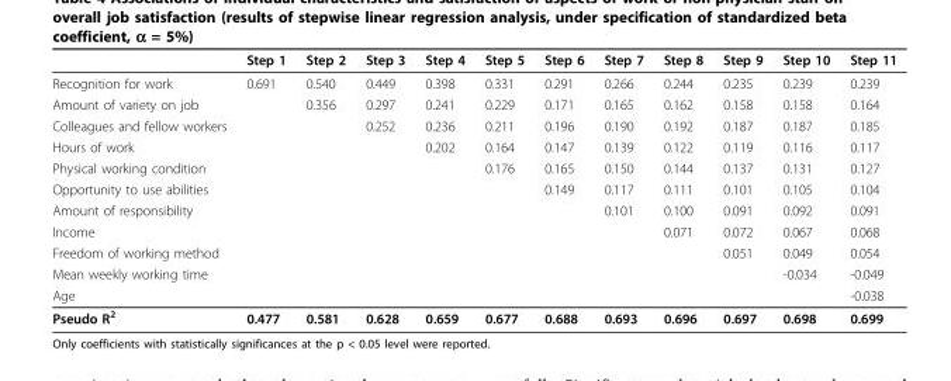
<table><thead><tr><td></td><td>Step 1</td><td>Step 2</td><td>Step 3</td><td>Step 4</td><td>Step 5</td><td>Step 6</td><td>Step 7</td><td>Step 8</td><td>Step 9</td><td>Step 10</td><td>Step 11</td></tr></thead><tbody><tr><td>Recognition for work</td><td>0.691</td><td>0.540</td><td>0.449</td><td>0.398</td><td>0.331</td><td>0.291</td><td>0.266</td><td>0.244</td><td>0.235</td><td>0.239</td><td>0.239</td></tr><tr><td>Amount of variety on job</td><td></td><td>0.356</td><td>0.297</td><td>0.241</td><td>0.229</td><td>0.171</td><td>0.165</td><td>0.162</td><td>0.158</td><td>0.158</td><td>0.164</td></tr><tr><td>Colleagues and fellow workers</td><td></td><td></td><td>0.252</td><td>0.236</td><td>0.211</td><td>0.196</td><td>0.190</td><td>0.192</td><td>0.187</td><td>0.187</td><td>0.185</td></tr><tr><td>Hours of work</td><td></td><td></td><td></td><td>0.202</td><td>0.164</td><td>0.147</td><td>0.139</td><td>0.122</td><td>0.119</td><td>0.116</td><td>0.117</td></tr><tr><td>Physical working condition</td><td></td><td></td><td></td><td></td><td>0.176</td><td>0.165</td><td>0.150</td><td>0.144</td><td>0.137</td><td>0.131</td><td>0.127</td></tr><tr><td>Opportunity to use abilities</td><td></td><td></td><td></td><td></td><td></td><td>0.149</td><td>0.117</td><td>0.111</td><td>0.101</td><td>0.105</td><td>0.104</td></tr><tr><td>Amount of responsibility</td><td></td><td></td><td></td><td></td><td></td><td></td><td>0.101</td><td>0.100</td><td>0.091</td><td>0.092</td><td>0.091</td></tr><tr><td>Income</td><td></td><td></td><td></td><td></td><td></td><td></td><td></td><td>0.071</td><td>0.072</td><td>0.067</td><td>0.068</td></tr><tr><td>Freedom of working method</td><td></td><td></td><td></td><td></td><td></td><td></td><td></td><td></td><td>0.051</td><td>0.049</td><td>0.054</td></tr><tr><td>Mean weekly working time</td><td></td><td></td><td></td><td></td><td></td><td></td><td></td><td></td><td></td><td>-0.034</td><td>-0.049</td></tr><tr><td>Age</td><td></td><td></td><td></td><td></td><td></td><td></td><td></td><td></td><td></td><td></td><td>-0.038</td></tr><tr><td>Pseudo R<sup>2</sup></td><td>0.477</td><td>0.581</td><td>0.628</td><td>0.659</td><td>0.677</td><td>0.688</td><td>0.693</td><td>0.696</td><td>0.697</td><td>0.698</td><td>0.699</td></tr></tbody></table>